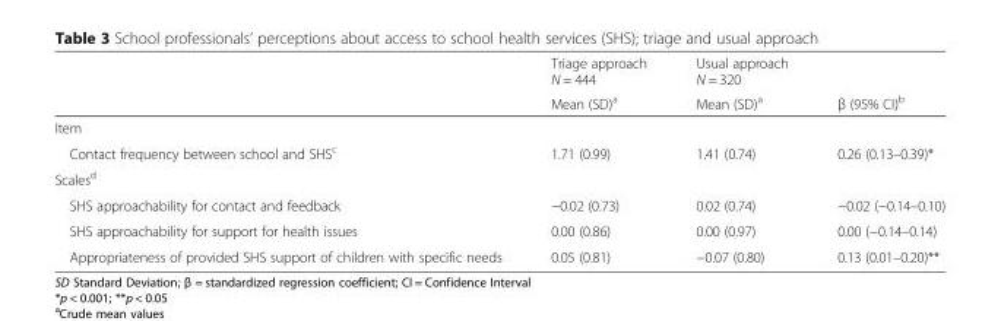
<table><thead><tr><td rowspan="2"></td><td rowspan="2">Triage approach N = 444 Mean (SD)<sup>a</sup></td><td rowspan="2">Usual approach N = 320 Mean (SD)<sup>a</sup></td><td rowspan="2">β (95% CI)<sup>b</sup></td></tr><tr></tr></thead><tbody><tr><td colspan="4">Item</td></tr><tr><td>Contact frequency between school and SHS<sup>c</sup></td><td>1.71 (0.99)</td><td>1.41 (0.74)</td><td>0.26 (0.13–0.39)*</td></tr><tr><td colspan="4">Scales<sup>d</sup></td></tr><tr><td>SHS approachability for contact and feedback</td><td>−0.02 (0.73)</td><td>0.02 (0.74)</td><td>−0.02 (−0.14–0.10)</td></tr><tr><td>SHS approachability for support for health issues</td><td>0.00 (0.86)</td><td>0.00 (0.97)</td><td>0.00 (−0.14–0.14)</td></tr><tr><td>Appropriateness of provided SHS support of children with specific needs</td><td>0.05 (0.81)</td><td>−0.07 (0.80)</td><td>0.13 (0.01–0.20)**</td></tr></tbody></table>